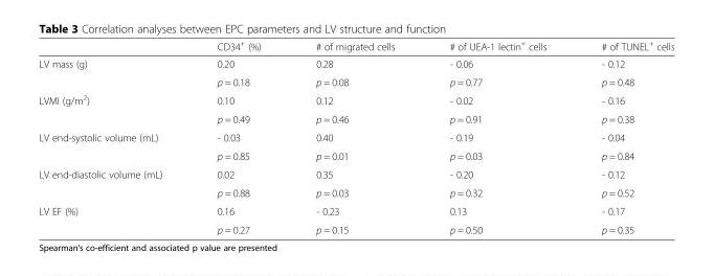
<table><thead><tr><td></td><td>CD34<sup>+</sup> (%)</td><td># of migrated cells</td><td># of UEA-1 lectin<sup>+</sup> cells</td><td># of TUNEL<sup>+</sup> cells</td></tr></thead><tbody><tr><td rowspan="2">LV mass (g)</td><td>0.20</td><td>0.28</td><td>- 0.06</td><td>- 0.12</td></tr><tr><td>p = 0.18</td><td>p = 0.08</td><td>p = 0.77</td><td>p = 0.48</td></tr><tr><td rowspan="2">LVMI (g/m<sup>2</sup>)</td><td>0.10</td><td>0.12</td><td>- 0.02</td><td>- 0.16</td></tr><tr><td>p = 0.49</td><td>p = 0.46</td><td>p = 0.91</td><td>p = 0.38</td></tr><tr><td rowspan="2">LV end-systolic volume (mL)</td><td>- 0.03</td><td>0.40</td><td>- 0.19</td><td>- 0.04</td></tr><tr><td>p = 0.85</td><td>p = 0.01</td><td>p = 0.03</td><td>p = 0.84</td></tr><tr><td rowspan="2">LV end-diastolic volume (mL)</td><td>0.02</td><td>0.35</td><td>- 0.20</td><td>- 0.12</td></tr><tr><td>p = 0.88</td><td>p = 0.03</td><td>p = 0.32</td><td>p = 0.52</td></tr><tr><td rowspan="2">LV EF (%)</td><td>0.16</td><td>- 0.23</td><td>0.13</td><td>- 0.17</td></tr><tr><td>p = 0.27</td><td>p = 0.15</td><td>p = 0.50</td><td>p = 0.35</td></tr></tbody></table>